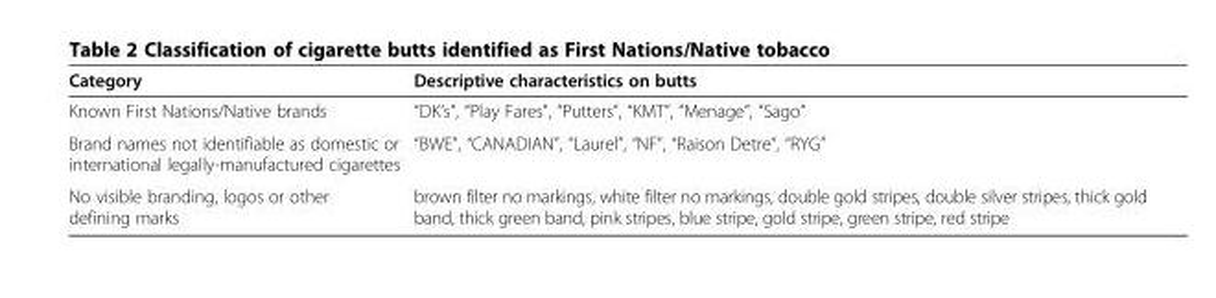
<table><thead><tr><td>Category</td><td>Descriptive characteristics on butts</td></tr></thead><tbody><tr><td>Known First Nations/Native brands</td><td>“DK’s”, “Play Fares”, “Putters”, “KMT”, “Menage”, “Sago”</td></tr><tr><td>Brand names not identifiable as domestic or international legally-manufactured cigarettes</td><td>“BWE”, “CANADIAN”, “Laurel”, “NF”, “Raison Detre”, “RYG”</td></tr><tr><td>No visible branding, logos or other defining marks</td><td>brown filter no markings, white filter no markings, double gold stripes, double silver stripes, thick gold band, thick green band, pink stripes, blue stripe, gold stripe, green stripe, red stripe</td></tr></tbody></table>